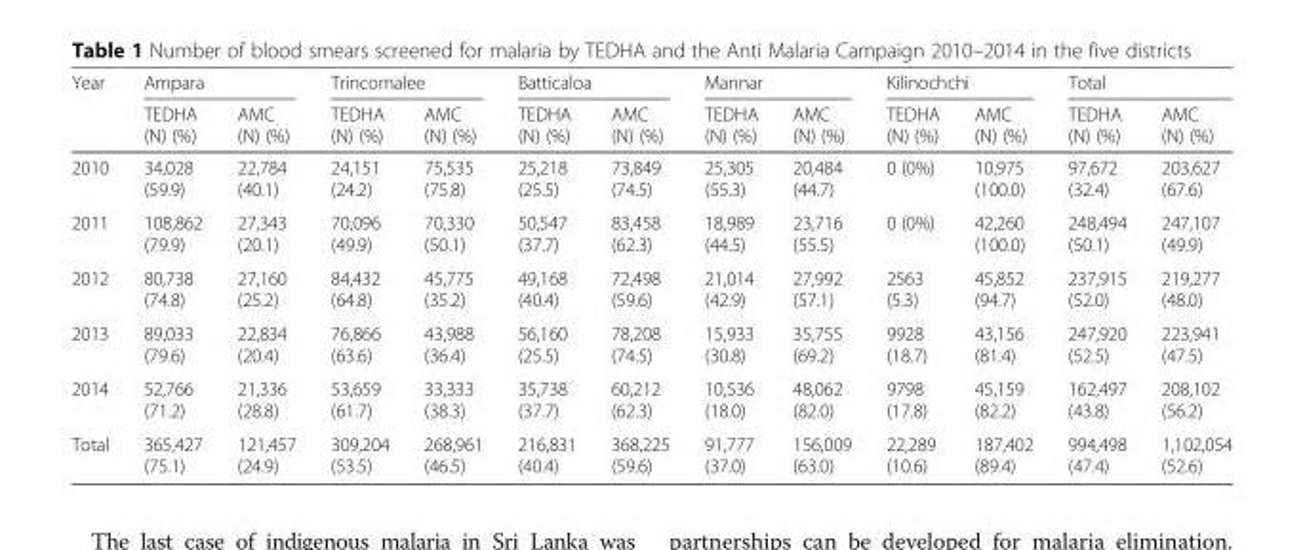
<table><thead><tr><td rowspan="2">Year</td><td colspan="2">Ampara</td><td colspan="2">Trincomalee</td><td colspan="2">Batticaloa</td><td colspan="2">Mannar</td><td colspan="2">Kilinochchi</td><td colspan="2">Total</td></tr><tr><td>TEDHA (N) (%)</td><td>AMC (N) (%)</td><td>TEDHA (N) (%)</td><td>AMC (N) (%)</td><td>TEDHA (N) (%)</td><td>AMC (N) (%)</td><td>TEDHA (N) (%)</td><td>AMC (N) (%)</td><td>TEDHA (N) (%)</td><td>AMC (N) (%)</td><td>TEDHA (N) (%)</td><td>AMC (N) (%)</td></tr></thead><tbody><tr><td>2010</td><td>34,028 (59.9)</td><td>22,784 (40.1)</td><td>24,151 (24.2)</td><td>75,535 (75.8)</td><td>25,218 (25.5)</td><td>73,849 (74.5)</td><td>25,305 (55.3)</td><td>20,484 (44.7)</td><td>0 (0%)</td><td>10,975 (100.0)</td><td>97,672 (32.4)</td><td>203,627 (67.6)</td></tr><tr><td>2011</td><td>108,862 (79.9)</td><td>27,343 (20.1)</td><td>70,096 (49.9)</td><td>70,330 (50.1)</td><td>50,547 (37.7)</td><td>83,458 (62.3)</td><td>18,989 (44.5)</td><td>23,716 (55.5)</td><td>0 (0%)</td><td>42,260 (100.0)</td><td>248,494 (50.1)</td><td>247,107 (49.9)</td></tr><tr><td>2012</td><td>80,738 (74.8)</td><td>27,160 (25.2)</td><td>84,432 (64.8)</td><td>45,775 (35.2)</td><td>49,168 (40.4)</td><td>72,498 (59.6)</td><td>21,014 (42.9)</td><td>27,992 (57.1)</td><td>2563 (5.3)</td><td>45,852 (94.7)</td><td>237,915 (52.0)</td><td>219,277 (48.0)</td></tr><tr><td>2013</td><td>89,033 (79.6)</td><td>22,834 (20.4)</td><td>76,866 (63.6)</td><td>43,988 (36.4)</td><td>56,160 (25.5)</td><td>78,208 (74.5)</td><td>15,933 (30.8)</td><td>35,755 (69.2)</td><td>9928 (18.7)</td><td>43,156 (81.4)</td><td>247,920 (52.5)</td><td>223,941 (47.5)</td></tr><tr><td>2014</td><td>52,766 (71.2)</td><td>21,336 (28.8)</td><td>53,659 (61.7)</td><td>33,333 (38.3)</td><td>35,738 (37.7)</td><td>60,212 (62.3)</td><td>10,536 (18.0)</td><td>48,062 (82.0)</td><td>9798 (17.8)</td><td>45,159 (82.2)</td><td>162,497 (43.8)</td><td>208,102 (56.2)</td></tr><tr><td>Total</td><td>365,427 (75.1)</td><td>121,457 (24.9)</td><td>309,204 (53.5)</td><td>268,961 (46.5)</td><td>216,831 (40.4)</td><td>368,225 (59.6)</td><td>91,777 (37.0)</td><td>156,009 (63.0)</td><td>22,289 (10.6)</td><td>187,402 (89.4)</td><td>994,498 (47.4)</td><td>1,102,054 (52.6)</td></tr></tbody></table>